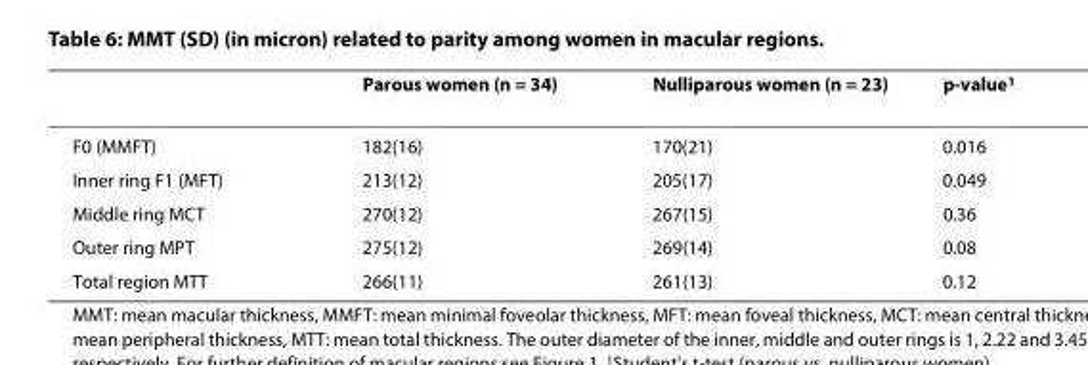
<table><thead><tr><td></td><td>Parous women (n = 34)</td><td>Nulliparous women (n = 23)</td><td>p-value<sup>1</sup></td></tr></thead><tbody><tr><td>F0 (MMFT)</td><td>182(16)</td><td>170(21)</td><td>0.016</td></tr><tr><td>Inner ring F1 (MFT)</td><td>213(12)</td><td>205(17)</td><td>0.049</td></tr><tr><td>Middle ring MCT</td><td>270(12)</td><td>267(15)</td><td>0.36</td></tr><tr><td>Outer ring MPT</td><td>275(12)</td><td>269(14)</td><td>0.08</td></tr><tr><td>Total region MTT</td><td>266(11)</td><td>261(13)</td><td>0.12</td></tr></tbody></table>